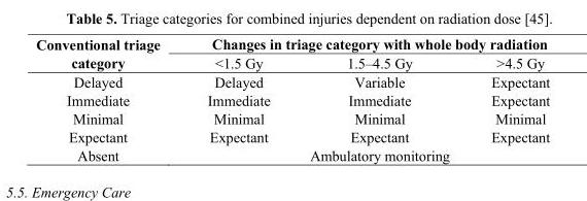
<table><thead><tr><td rowspan="2">Conventional triage category</td><td colspan="3">Changes in triage category with whole body radiation</td></tr><tr><td>&lt;1.5 Gy</td><td>1.5–4.5 Gy</td><td>&gt;4.5 Gy</td></tr></thead><tbody><tr><td>Delayed</td><td>Delayed</td><td>Variable</td><td>Expectant</td></tr><tr><td>Immediate</td><td>Immediate</td><td>Immediate</td><td>Expectant</td></tr><tr><td>Minimal</td><td>Minimal</td><td>Minimal</td><td>Minimal</td></tr><tr><td>Expectant</td><td>Expectant</td><td>Expectant</td><td>Expectant</td></tr><tr><td>Absent</td><td colspan="3">Ambulatory monitoring</td></tr></tbody></table>